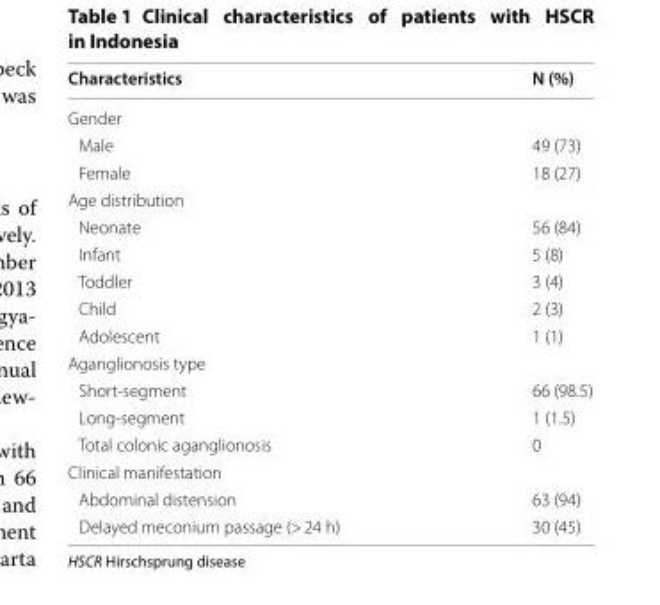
<table><thead><tr><td>Characteristics</td><td>N (%)</td></tr></thead><tbody><tr><td colspan="2">Gender</td></tr><tr><td>Male</td><td>49 (73)</td></tr><tr><td>Female</td><td>18 (27)</td></tr><tr><td colspan="2">Age distribution</td></tr><tr><td>Neonate</td><td>56 (84)</td></tr><tr><td>Infant</td><td>5 (8)</td></tr><tr><td>Toddler</td><td>3 (4)</td></tr><tr><td>Child</td><td>2 (3)</td></tr><tr><td>Adolescent</td><td>1 (1)</td></tr><tr><td colspan="2">Aganglionosis type</td></tr><tr><td>Short-segment</td><td>66 (98.5)</td></tr><tr><td>Long-segment</td><td>1 (1.5)</td></tr><tr><td>Total colonic aganglionosis</td><td>0</td></tr><tr><td colspan="2">Clinical manifestation</td></tr><tr><td>Abdominal distension</td><td>63 (94)</td></tr><tr><td>Delayed meconium passage (&gt; 24 h)</td><td>30 (45)</td></tr></tbody></table>